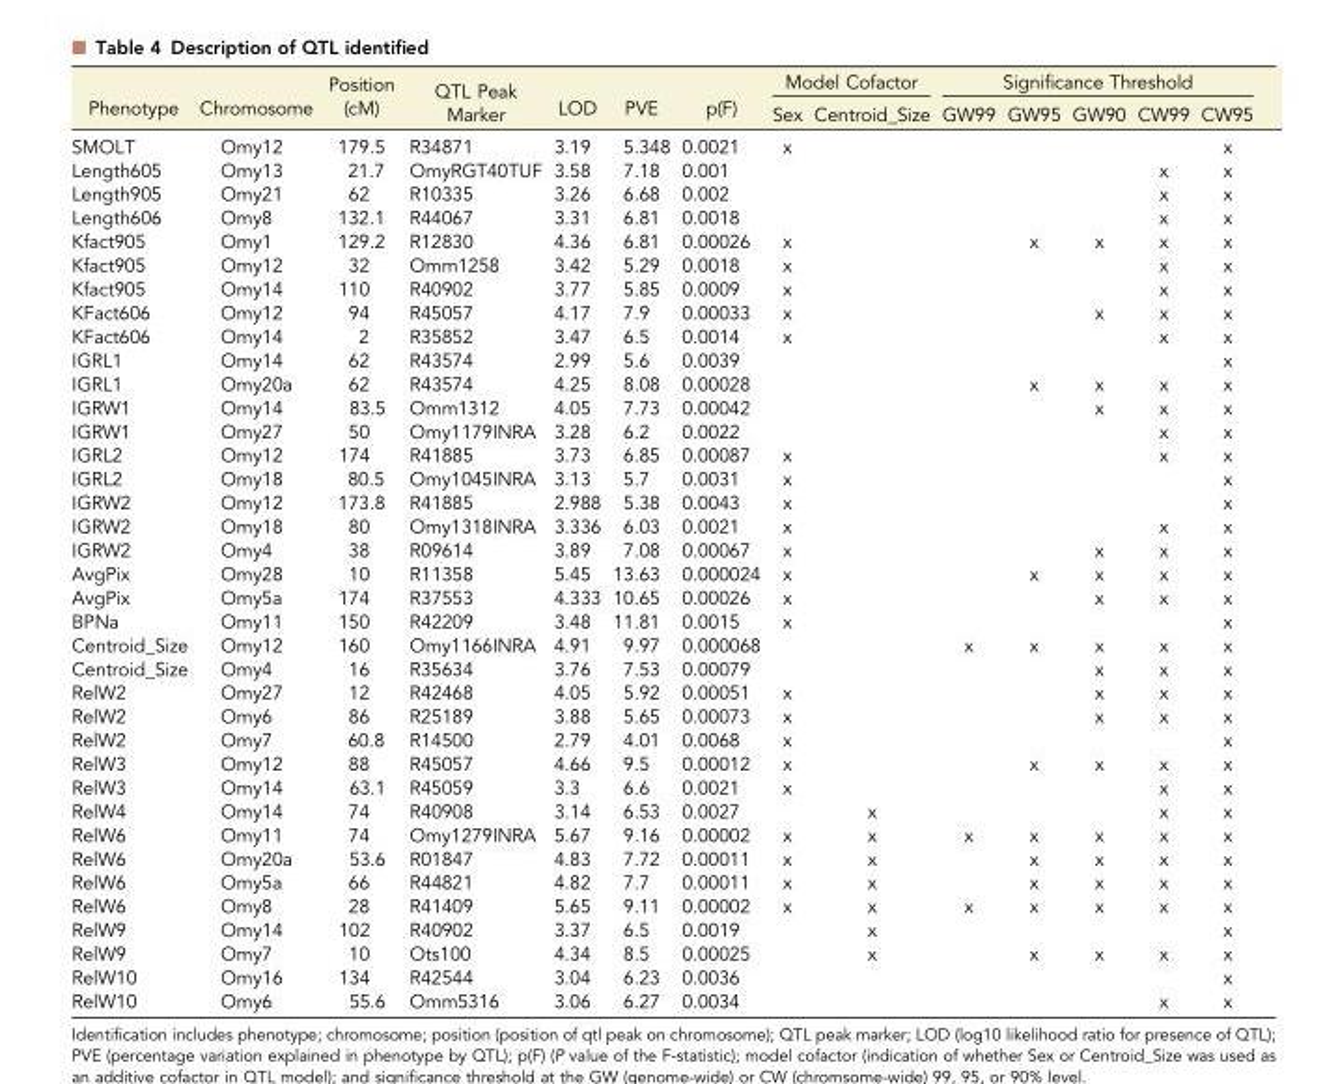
<table><thead><tr><td rowspan="2">Phenotype</td><td rowspan="2">Chromosome</td><td rowspan="2">Position (cM)</td><td rowspan="2">QTL Peak Marker</td><td rowspan="2">LOD</td><td rowspan="2">PVE</td><td rowspan="2">p(F)</td><td colspan="2">Model Cofactor</td><td colspan="5">Significance Threshold</td></tr><tr><td>Sex</td><td>Centroid_Size</td><td>GW99</td><td>GW95</td><td>GW90</td><td>CW99</td><td>CW95</td></tr></thead><tbody><tr><td>SMOLT</td><td>Omy12</td><td>179.5</td><td>R34871</td><td>3.19</td><td>5.348</td><td>0.0021</td><td>x</td><td></td><td></td><td></td><td></td><td></td><td>x</td></tr><tr><td>Length605</td><td>Omy13</td><td>21.7</td><td>OmyRGT40TUF</td><td>3.58</td><td>7.18</td><td>0.001</td><td></td><td></td><td></td><td></td><td></td><td>x</td><td>x</td></tr><tr><td>Length905</td><td>Omy21</td><td>62</td><td>R10335</td><td>3.26</td><td>6.68</td><td>0.002</td><td></td><td></td><td></td><td></td><td></td><td>x</td><td>x</td></tr><tr><td>Length606</td><td>Omy8</td><td>132.1</td><td>R44067</td><td>3.31</td><td>6.81</td><td>0.0018</td><td></td><td></td><td></td><td></td><td></td><td>x</td><td>x</td></tr><tr><td>Kfact905</td><td>Omy1</td><td>129.2</td><td>R12830</td><td>4.36</td><td>6.81</td><td>0.00026</td><td>x</td><td></td><td></td><td>x</td><td>x</td><td>x</td><td>x</td></tr><tr><td>Kfact905</td><td>Omy12</td><td>32</td><td>Omm1258</td><td>3.42</td><td>5.29</td><td>0.0018</td><td>x</td><td></td><td></td><td></td><td></td><td>x</td><td>x</td></tr><tr><td>Kfact905</td><td>Omy14</td><td>110</td><td>R40902</td><td>3.77</td><td>5.85</td><td>0.0009</td><td>x</td><td></td><td></td><td></td><td></td><td>x</td><td>x</td></tr><tr><td>KFact606</td><td>Omy12</td><td>94</td><td>R45057</td><td>4.17</td><td>7.9</td><td>0.00033</td><td>x</td><td></td><td></td><td></td><td>x</td><td>x</td><td>x</td></tr><tr><td>KFact606</td><td>Omy14</td><td>2</td><td>R35852</td><td>3.47</td><td>6.5</td><td>0.0014</td><td>x</td><td></td><td></td><td></td><td></td><td>x</td><td>x</td></tr><tr><td>IGRL1</td><td>Omy14</td><td>62</td><td>R43574</td><td>2.99</td><td>5.6</td><td>0.0039</td><td></td><td></td><td></td><td></td><td></td><td></td><td>x</td></tr><tr><td>IGRL1</td><td>Omy20a</td><td>62</td><td>R43574</td><td>4.25</td><td>8.08</td><td>0.00028</td><td></td><td></td><td></td><td>x</td><td>x</td><td>x</td><td>x</td></tr><tr><td>IGRW1</td><td>Omy14</td><td>83.5</td><td>Omm1312</td><td>4.05</td><td>7.73</td><td>0.00042</td><td></td><td></td><td></td><td></td><td>x</td><td>x</td><td>x</td></tr><tr><td>IGRW1</td><td>Omy27</td><td>50</td><td>Omy1179INRA</td><td>3.28</td><td>6.2</td><td>0.0022</td><td></td><td></td><td></td><td></td><td></td><td>x</td><td>x</td></tr><tr><td>IGRL2</td><td>Omy12</td><td>174</td><td>R41885</td><td>3.73</td><td>6.85</td><td>0.00087</td><td>x</td><td></td><td></td><td></td><td></td><td>x</td><td>x</td></tr><tr><td>IGRL2</td><td>Omy18</td><td>80.5</td><td>Omy1045INRA</td><td>3.13</td><td>5.7</td><td>0.0031</td><td>x</td><td></td><td></td><td></td><td></td><td></td><td>x</td></tr><tr><td>IGRW2</td><td>Omy12</td><td>173.8</td><td>R41885</td><td>2.988</td><td>5.38</td><td>0.0043</td><td>x</td><td></td><td></td><td></td><td></td><td></td><td>x</td></tr><tr><td>IGRW2</td><td>Omy18</td><td>80</td><td>Omy1318INRA</td><td>3.336</td><td>6.03</td><td>0.0021</td><td>x</td><td></td><td></td><td></td><td></td><td>x</td><td>x</td></tr><tr><td>IGRW2</td><td>Omy4</td><td>38</td><td>R09614</td><td>3.89</td><td>7.08</td><td>0.00067</td><td>x</td><td></td><td></td><td></td><td>x</td><td>x</td><td>x</td></tr><tr><td>AvgPix</td><td>Omy28</td><td>10</td><td>R11358</td><td>5.45</td><td>13.63</td><td>0.000024</td><td>x</td><td></td><td></td><td>x</td><td>x</td><td>x</td><td>x</td></tr><tr><td>AvgPix</td><td>Omy5a</td><td>174</td><td>R37553</td><td>4.333</td><td>10.65</td><td>0.00026</td><td>x</td><td></td><td></td><td></td><td>x</td><td>x</td><td>x</td></tr><tr><td>BPNa</td><td>Omy11</td><td>150</td><td>R42209</td><td>3.48</td><td>11.81</td><td>0.0015</td><td>x</td><td></td><td></td><td></td><td></td><td></td><td>x</td></tr><tr><td>Centroid_Size</td><td>Omy12</td><td>160</td><td>Omy1166INRA</td><td>4.91</td><td>9.97</td><td>0.000068</td><td></td><td></td><td>x</td><td>x</td><td>x</td><td>x</td><td>x</td></tr><tr><td>Centroid_Size</td><td>Omy4</td><td>16</td><td>R35634</td><td>3.76</td><td>7.53</td><td>0.00079</td><td></td><td></td><td></td><td></td><td>x</td><td>x</td><td>x</td></tr><tr><td>RelW2</td><td>Omy27</td><td>12</td><td>R42468</td><td>4.05</td><td>5.92</td><td>0.00051</td><td>x</td><td></td><td></td><td></td><td>x</td><td>x</td><td>x</td></tr><tr><td>RelW2</td><td>Omy6</td><td>86</td><td>R25189</td><td>3.88</td><td>5.65</td><td>0.00073</td><td>x</td><td></td><td></td><td></td><td>x</td><td>x</td><td>x</td></tr><tr><td>RelW2</td><td>Omy7</td><td>60.8</td><td>R14500</td><td>2.79</td><td>4.01</td><td>0.0068</td><td>x</td><td></td><td></td><td></td><td></td><td></td><td>x</td></tr><tr><td>RelW3</td><td>Omy12</td><td>88</td><td>R45057</td><td>4.66</td><td>9.5</td><td>0.00012</td><td>x</td><td></td><td></td><td>x</td><td>x</td><td>x</td><td>x</td></tr><tr><td>RelW3</td><td>Omy14</td><td>63.1</td><td>R45059</td><td>3.3</td><td>6.6</td><td>0.0021</td><td>x</td><td></td><td></td><td></td><td></td><td>x</td><td>x</td></tr><tr><td>RelW4</td><td>Omy14</td><td>74</td><td>R40908</td><td>3.14</td><td>6.53</td><td>0.0027</td><td></td><td>x</td><td></td><td></td><td></td><td>x</td><td>x</td></tr><tr><td>RelW6</td><td>Omy11</td><td>74</td><td>Omy1279INRA</td><td>5.67</td><td>9.16</td><td>0.00002</td><td>x</td><td>x</td><td>x</td><td>x</td><td>x</td><td>x</td><td>x</td></tr><tr><td>RelW6</td><td>Omy20a</td><td>53.6</td><td>R01847</td><td>4.83</td><td>7.72</td><td>0.00011</td><td>x</td><td>x</td><td></td><td>x</td><td>x</td><td>x</td><td>x</td></tr><tr><td>RelW6</td><td>Omy5a</td><td>66</td><td>R44821</td><td>4.82</td><td>7.7</td><td>0.00011</td><td>x</td><td>x</td><td></td><td>x</td><td>x</td><td>x</td><td>x</td></tr><tr><td>RelW6</td><td>Omy8</td><td>28</td><td>R41409</td><td>5.65</td><td>9.11</td><td>0.00002</td><td>x</td><td>x</td><td>x</td><td>x</td><td>x</td><td>x</td><td>x</td></tr><tr><td>RelW9</td><td>Omy14</td><td>102</td><td>R40902</td><td>3.37</td><td>6.5</td><td>0.0019</td><td></td><td>x</td><td></td><td></td><td></td><td></td><td>x</td></tr><tr><td>RelW9</td><td>Omy7</td><td>10</td><td>Ots100</td><td>4.34</td><td>8.5</td><td>0.00025</td><td></td><td>x</td><td></td><td>x</td><td>x</td><td>x</td><td>x</td></tr><tr><td>RelW10</td><td>Omy16</td><td>134</td><td>R42544</td><td>3.04</td><td>6.23</td><td>0.0036</td><td></td><td></td><td></td><td></td><td></td><td></td><td>x</td></tr><tr><td>RelW10</td><td>Omy6</td><td>55.6</td><td>Omm5316</td><td>3.06</td><td>6.27</td><td>0.0034</td><td></td><td></td><td></td><td></td><td></td><td>x</td><td>x</td></tr></tbody></table>